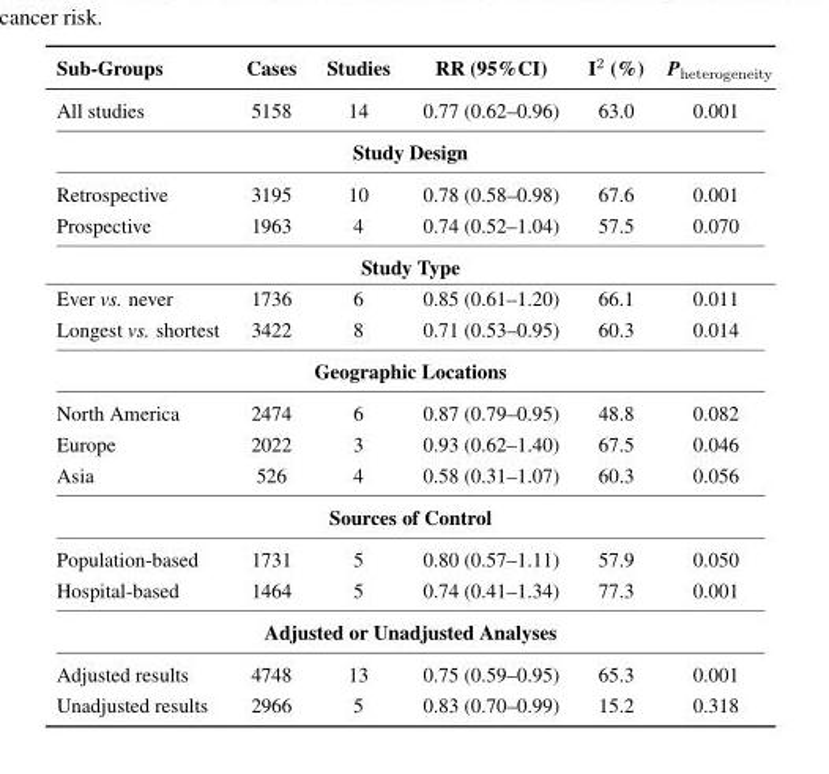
<table><thead><tr><td>Sub-Groups</td><td>Cases</td><td>Studies</td><td>RR (95%CI)</td><td>I<sup>2</sup> (%)</td><td>P<sub>heterogeneity</sub></td></tr></thead><tbody><tr><td>All studies</td><td>5158</td><td>14</td><td>0.77 (0.62–0.96)</td><td>63.0</td><td>0.001</td></tr><tr><td colspan="6">Study Design</td></tr><tr><td>Retrospective</td><td>3195</td><td>10</td><td>0.78 (0.58–0.98)</td><td>67.6</td><td>0.001</td></tr><tr><td>Prospective</td><td>1963</td><td>4</td><td>0.74 (0.52–1.04)</td><td>57.5</td><td>0.070</td></tr><tr><td colspan="6">Study Type</td></tr><tr><td>Ever vs. never</td><td>1736</td><td>6</td><td>0.85 (0.61–1.20)</td><td>66.1</td><td>0.011</td></tr><tr><td>Longest vs. shortest</td><td>3422</td><td>8</td><td>0.71 (0.53–0.95)</td><td>60.3</td><td>0.014</td></tr><tr><td colspan="6">Geographic Locations</td></tr><tr><td>North America</td><td>2474</td><td>6</td><td>0.87 (0.79–0.95)</td><td>48.8</td><td>0.082</td></tr><tr><td>Europe</td><td>2022</td><td>3</td><td>0.93 (0.62–1.40)</td><td>67.5</td><td>0.046</td></tr><tr><td>Asia</td><td>526</td><td>4</td><td>0.58 (0.31–1.07)</td><td>60.3</td><td>0.056</td></tr><tr><td colspan="6">Sources of Control</td></tr><tr><td>Population-based</td><td>1731</td><td>5</td><td>0.80 (0.57–1.11)</td><td>57.9</td><td>0.050</td></tr><tr><td>Hospital-based</td><td>1464</td><td>5</td><td>0.74 (0.41–1.34)</td><td>77.3</td><td>0.001</td></tr><tr><td colspan="6">Adjusted or Unadjusted Analyses</td></tr><tr><td>Adjusted results</td><td>4748</td><td>13</td><td>0.75 (0.59–0.95)</td><td>65.3</td><td>0.001</td></tr><tr><td>Unadjusted results</td><td>2966</td><td>5</td><td>0.83 (0.70–0.99)</td><td>15.2</td><td>0.318</td></tr></tbody></table>